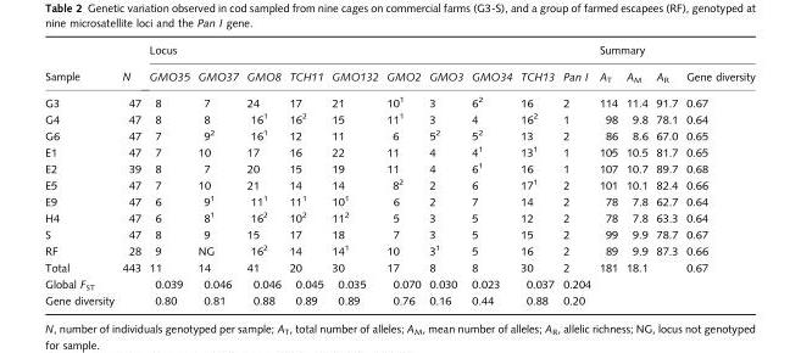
<table><thead><tr><td rowspan="2">Sample</td><td rowspan="2">N</td><td colspan="10">Locus</td><td colspan="4">Summary</td></tr><tr><td>GMO35</td><td>GMO37</td><td>GMO8</td><td>TCH11</td><td>GMO132</td><td>GMO2</td><td>GMO3</td><td>GMO34</td><td>TCH13</td><td>Pan I</td><td>A<sub>T</sub></td><td>A<sub>M</sub></td><td>A<sub>R</sub></td><td>Gene diversity</td></tr></thead><tbody><tr><td>G3</td><td>47</td><td>8</td><td>7</td><td>24</td><td>17</td><td>21</td><td>10<sup>1</sup></td><td>3</td><td>6<sup>2</sup></td><td>16</td><td>2</td><td>114</td><td>11.4</td><td>91.7</td><td>0.67</td></tr><tr><td>G4</td><td>47</td><td>8</td><td>8</td><td>16<sup>1</sup></td><td>16<sup>2</sup></td><td>15</td><td>11<sup>1</sup></td><td>3</td><td>4</td><td>16<sup>2</sup></td><td>1</td><td>98</td><td>9.8</td><td>78.1</td><td>0.64</td></tr><tr><td>G6</td><td>47</td><td>7</td><td>9<sup>2</sup></td><td>16<sup>1</sup></td><td>12</td><td>11</td><td>6</td><td>5<sup>2</sup></td><td>5<sup>2</sup></td><td>13</td><td>2</td><td>86</td><td>8.6</td><td>67.0</td><td>0.65</td></tr><tr><td>E1</td><td>47</td><td>7</td><td>10</td><td>17</td><td>16</td><td>22</td><td>11</td><td>4</td><td>4<sup>1</sup></td><td>13<sup>1</sup></td><td>1</td><td>105</td><td>10.5</td><td>81.7</td><td>0.65</td></tr><tr><td>E2</td><td>39</td><td>8</td><td>7</td><td>20</td><td>15</td><td>19</td><td>11</td><td>4</td><td>6<sup>1</sup></td><td>16</td><td>1</td><td>107</td><td>10.7</td><td>89.7</td><td>0.68</td></tr><tr><td>E5</td><td>47</td><td>7</td><td>10</td><td>21</td><td>14</td><td>14</td><td>8<sup>2</sup></td><td>2</td><td>6</td><td>17<sup>1</sup></td><td>2</td><td>101</td><td>10.1</td><td>82.4</td><td>0.66</td></tr><tr><td>E9</td><td>47</td><td>6</td><td>9<sup>1</sup></td><td>11<sup>1</sup></td><td>11<sup>1</sup></td><td>10<sup>1</sup></td><td>6</td><td>2</td><td>7</td><td>14</td><td>2</td><td>78</td><td>7.8</td><td>62.7</td><td>0.64</td></tr><tr><td>H4</td><td>47</td><td>6</td><td>8<sup>1</sup></td><td>16<sup>2</sup></td><td>10<sup>2</sup></td><td>11<sup>2</sup></td><td>5</td><td>3</td><td>5</td><td>12</td><td>2</td><td>78</td><td>7.8</td><td>63.3</td><td>0.64</td></tr><tr><td>S</td><td>47</td><td>8</td><td>9</td><td>15</td><td>17</td><td>18</td><td>7</td><td>3</td><td>5</td><td>15</td><td>2</td><td>99</td><td>9.9</td><td>78.7</td><td>0.67</td></tr><tr><td>RF</td><td>28</td><td>9</td><td>NG</td><td>16<sup>2</sup></td><td>14</td><td>14<sup>1</sup></td><td>10</td><td>3<sup>1</sup></td><td>5</td><td>16</td><td>2</td><td>89</td><td>9.9</td><td>87.3</td><td>0.66</td></tr><tr><td>Total</td><td>443</td><td>11</td><td>14</td><td>41</td><td>20</td><td>30</td><td>17</td><td>8</td><td>8</td><td>30</td><td>2</td><td>181</td><td>18.1</td><td></td><td>0.67</td></tr><tr><td>Global F<sub>ST</sub></td><td></td><td>0.039</td><td>0.046</td><td>0.046</td><td>0.045</td><td>0.035</td><td>0.070</td><td>0.030</td><td>0.023</td><td>0.037</td><td>0.204</td><td></td><td></td><td></td><td></td></tr><tr><td>Gene diversity</td><td></td><td>0.80</td><td>0.81</td><td>0.88</td><td>0.89</td><td>0.89</td><td>0.76</td><td>0.16</td><td>0.44</td><td>0.88</td><td>0.20</td><td></td><td></td><td></td><td></td></tr></tbody></table>